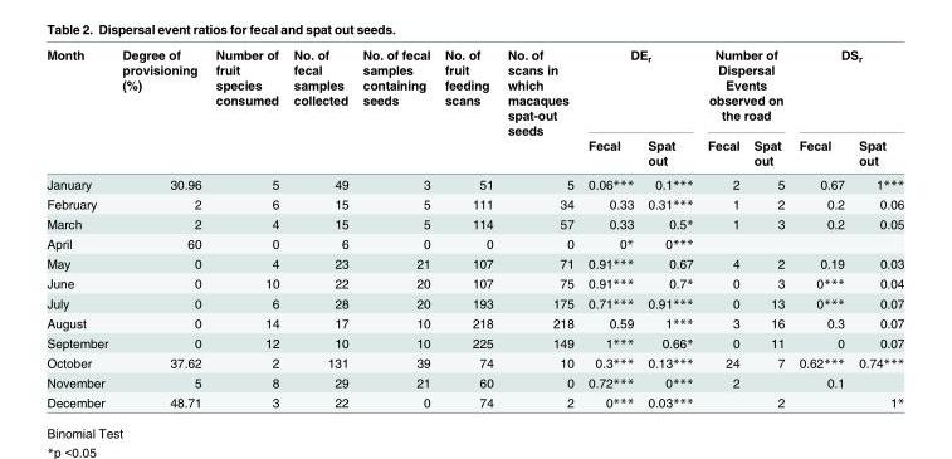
<table><thead><tr><td rowspan="2">Month</td><td rowspan="2">Degree of provisioning (%)</td><td rowspan="2">Number of fruit species consumed</td><td rowspan="2">No. of fecal samples collected</td><td rowspan="2">No. of fecal samples containing seeds</td><td rowspan="2">No. of fruit feeding scans</td><td rowspan="2">No. of scans in which macaques spat-out seeds</td><td colspan="2">DE<sub>r</sub></td><td colspan="2">Number of Dispersal Events observed on the road</td><td colspan="2">DS<sub>r</sub></td></tr><tr><td>Fecal</td><td>Spat out</td><td>Fecal</td><td>Spat out</td><td>Fecal</td><td>Spat out</td></tr></thead><tbody><tr><td>January</td><td>30.96</td><td>5</td><td>49</td><td>3</td><td>51</td><td>5</td><td>0.06***</td><td>0.1***</td><td>2</td><td>5</td><td>0.67</td><td>1***</td></tr><tr><td>February</td><td>2</td><td>6</td><td>15</td><td>5</td><td>111</td><td>34</td><td>0.33</td><td>0.31***</td><td>1</td><td>2</td><td>0.2</td><td>0.06</td></tr><tr><td>March</td><td>2</td><td>4</td><td>15</td><td>5</td><td>114</td><td>57</td><td>0.33</td><td>0.5*</td><td>1</td><td>3</td><td>0.2</td><td>0.05</td></tr><tr><td>April</td><td>60</td><td>0</td><td>6</td><td>0</td><td>0</td><td>0</td><td>0*</td><td>0***</td><td></td><td></td><td></td><td></td></tr><tr><td>May</td><td>0</td><td>4</td><td>23</td><td>21</td><td>107</td><td>71</td><td>0.91***</td><td>0.67</td><td>4</td><td>2</td><td>0.19</td><td>0.03</td></tr><tr><td>June</td><td>0</td><td>10</td><td>22</td><td>20</td><td>107</td><td>75</td><td>0.91***</td><td>0.7*</td><td>0</td><td>3</td><td>0***</td><td>0.04</td></tr><tr><td>July</td><td>0</td><td>6</td><td>28</td><td>20</td><td>193</td><td>175</td><td>0.71***</td><td>0.91***</td><td>0</td><td>13</td><td>0***</td><td>0.07</td></tr><tr><td>August</td><td>0</td><td>14</td><td>17</td><td>10</td><td>218</td><td>218</td><td>0.59</td><td>1***</td><td>3</td><td>16</td><td>0.3</td><td>0.07</td></tr><tr><td>September</td><td>0</td><td>12</td><td>10</td><td>10</td><td>225</td><td>149</td><td>1***</td><td>0.66*</td><td>0</td><td>11</td><td>0</td><td>0.07</td></tr><tr><td>October</td><td>37.62</td><td>2</td><td>131</td><td>39</td><td>74</td><td>10</td><td>0.3***</td><td>0.13***</td><td>24</td><td>7</td><td>0.62***</td><td>0.74***</td></tr><tr><td>November</td><td>5</td><td>8</td><td>29</td><td>21</td><td>60</td><td>0</td><td>0.72***</td><td>0***</td><td>2</td><td></td><td>0.1</td><td></td></tr><tr><td>December</td><td>48.71</td><td>3</td><td>22</td><td>0</td><td>74</td><td>2</td><td>0***</td><td>0.03***</td><td></td><td>2</td><td></td><td>1*</td></tr></tbody></table>